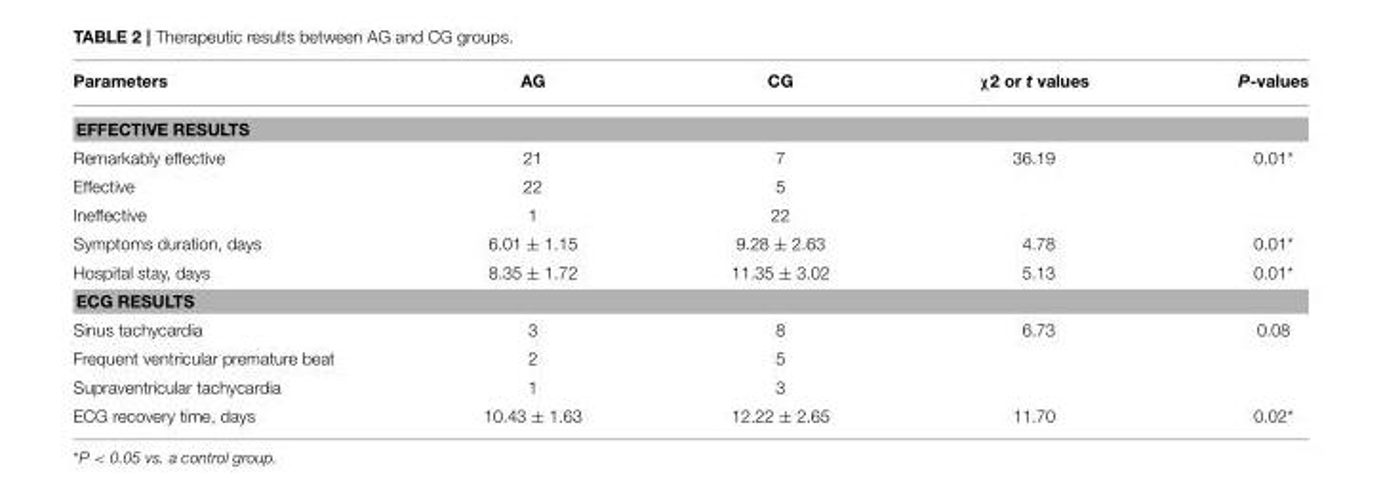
<table><thead><tr><td>Parameters</td><td>AG</td><td>CG</td><td>χ2 or t values</td><td>P-values</td></tr></thead><tbody><tr><td colspan="5">EFFECTIVE RESULTS</td></tr><tr><td>Remarkably effective</td><td>21</td><td>7</td><td>36.19</td><td>0.01*</td></tr><tr><td>Effective</td><td>22</td><td>5</td><td></td><td></td></tr><tr><td>Ineffective</td><td>1</td><td>22</td><td></td><td></td></tr><tr><td>Symptoms duration, days</td><td>6.01 ± 1.15</td><td>9.28 ± 2.63</td><td>4.78</td><td>0.01*</td></tr><tr><td>Hospital stay, days</td><td>8.35 ± 1.72</td><td>11.35 ± 3.02</td><td>5.13</td><td>0.01*</td></tr><tr><td colspan="5">ECG RESULTS</td></tr><tr><td>Sinus tachycardia</td><td>3</td><td>8</td><td>6.73</td><td>0.08</td></tr><tr><td>Frequent ventricular premature beat</td><td>2</td><td>5</td><td></td><td></td></tr><tr><td>Supraventricular tachycardia</td><td>1</td><td>3</td><td></td><td></td></tr><tr><td>ECG recovery time, days</td><td>10.43 ± 1.63</td><td>12.22 ± 2.65</td><td>11.70</td><td>0.02*</td></tr></tbody></table>